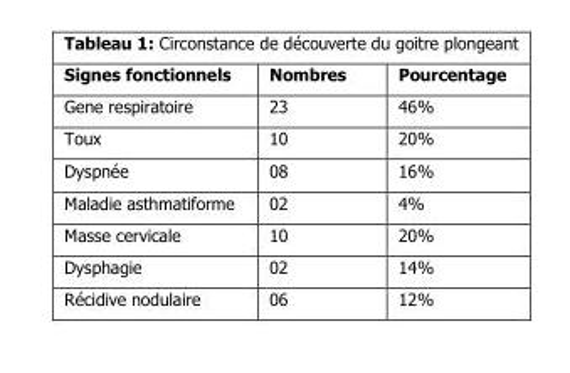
<table><thead><tr><td>Signes fonctionnels</td><td>Nombres</td><td>Pourcentage</td></tr></thead><tbody><tr><td>Gene respiratoire</td><td>23</td><td>46%</td></tr><tr><td>Toux</td><td>10</td><td>20%</td></tr><tr><td>Dyspnée</td><td>08</td><td>16%</td></tr><tr><td>Maladie asthmatiforme</td><td>02</td><td>4%</td></tr><tr><td>Masse cervicale</td><td>10</td><td>20%</td></tr><tr><td>Dysphagie</td><td>02</td><td>14%</td></tr><tr><td>Récidive nodulaire</td><td>06</td><td>12%</td></tr></tbody></table>